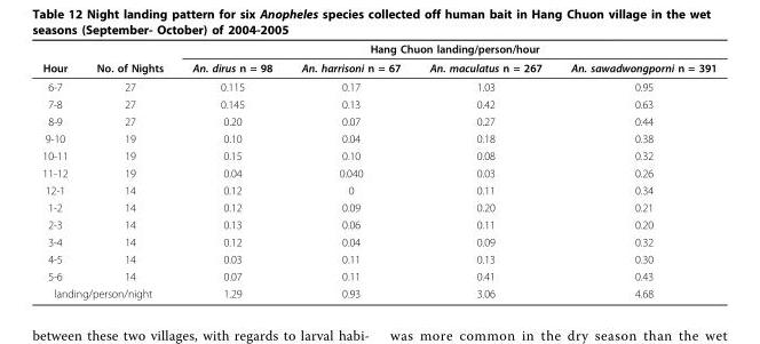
<table><thead><tr><td rowspan="2">Hour</td><td rowspan="2">No. of Nights</td><td colspan="4">Hang Chuon landing/person/hour</td></tr><tr><td>An. dirus n = 98</td><td>An. harrisoni n = 67</td><td>An. maculatus n = 267</td><td>An. sawadwongporni n = 391</td></tr></thead><tbody><tr><td>6-7</td><td>27</td><td>0.115</td><td>0.17</td><td>1.03</td><td>0.95</td></tr><tr><td>7-8</td><td>27</td><td>0.145</td><td>0.13</td><td>0.42</td><td>0.63</td></tr><tr><td>8-9</td><td>27</td><td>0.20</td><td>0.07</td><td>0.27</td><td>0.44</td></tr><tr><td>9-10</td><td>19</td><td>0.10</td><td>0.04</td><td>0.18</td><td>0.38</td></tr><tr><td>10-11</td><td>19</td><td>0.15</td><td>0.10</td><td>0.08</td><td>0.32</td></tr><tr><td>11-12</td><td>19</td><td>0.04</td><td>0.040</td><td>0.03</td><td>0.26</td></tr><tr><td>12-1</td><td>14</td><td>0.12</td><td>0</td><td>0.11</td><td>0.34</td></tr><tr><td>1-2</td><td>14</td><td>0.12</td><td>0.09</td><td>0.20</td><td>0.21</td></tr><tr><td>2-3</td><td>14</td><td>0.13</td><td>0.06</td><td>0.11</td><td>0.20</td></tr><tr><td>3-4</td><td>14</td><td>0.12</td><td>0.04</td><td>0.09</td><td>0.32</td></tr><tr><td>4-5</td><td>14</td><td>0.03</td><td>0.11</td><td>0.13</td><td>0.30</td></tr><tr><td>5-6</td><td>14</td><td>0.07</td><td>0.11</td><td>0.41</td><td>0.43</td></tr><tr><td colspan="2">landing/person/night</td><td>1.29</td><td>0.93</td><td>3.06</td><td>4.68</td></tr></tbody></table>